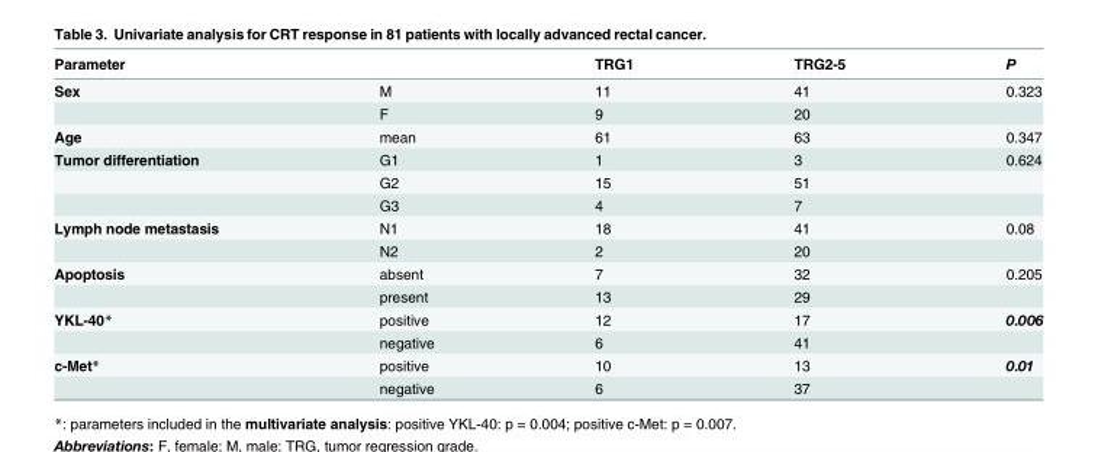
<table><thead><tr><td>Parameter</td><td></td><td>TRG1</td><td>TRG2-5</td><td>P</td></tr></thead><tbody><tr><td rowspan="2">Sex</td><td>M</td><td>11</td><td>41</td><td>0.323</td></tr><tr><td>F</td><td>9</td><td>20</td><td></td></tr><tr><td>Age</td><td>mean</td><td>61</td><td>63</td><td>0.347</td></tr><tr><td rowspan="3">Tumor differentiation</td><td>G1</td><td>1</td><td>3</td><td>0.624</td></tr><tr><td>G2</td><td>15</td><td>51</td><td></td></tr><tr><td>G3</td><td>4</td><td>7</td><td></td></tr><tr><td rowspan="2">Lymph node metastasis</td><td>N1</td><td>18</td><td>41</td><td>0.08</td></tr><tr><td>N2</td><td>2</td><td>20</td><td></td></tr><tr><td rowspan="2">Apoptosis</td><td>absent</td><td>7</td><td>32</td><td>0.205</td></tr><tr><td>present</td><td>13</td><td>29</td><td></td></tr><tr><td rowspan="2">YKL-40*</td><td>positive</td><td>12</td><td>17</td><td>0.006</td></tr><tr><td>negative</td><td>6</td><td>41</td><td></td></tr><tr><td rowspan="2">c-Met*</td><td>positive</td><td>10</td><td>13</td><td>0.01</td></tr><tr><td>negative</td><td>6</td><td>37</td><td></td></tr></tbody></table>